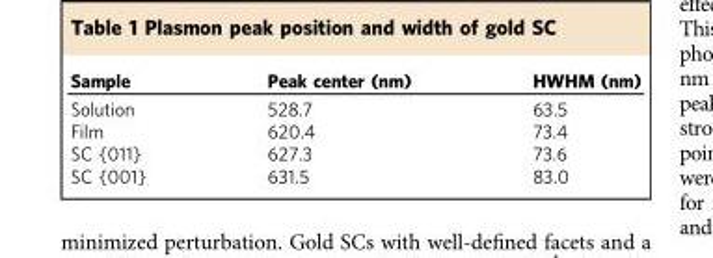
<table><thead><tr><td>Sample</td><td>Peak center (nm)</td><td>HWHM (nm)</td></tr></thead><tbody><tr><td>Solution</td><td>528.7</td><td>63.5</td></tr><tr><td>Film</td><td>620.4</td><td>73.4</td></tr><tr><td>SC {011}</td><td>627.3</td><td>73.6</td></tr><tr><td>SC {001}</td><td>631.5</td><td>83.0</td></tr></tbody></table>